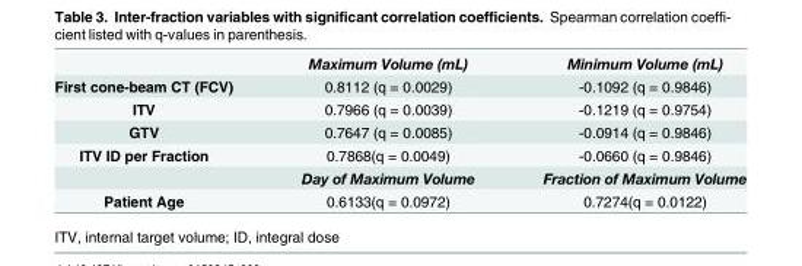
<table><thead><tr><td></td><td>Maximum Volume (mL)</td><td>Minimum Volume (mL)</td></tr></thead><tbody><tr><td>First cone-beam CT (FCV)</td><td>0.8112 (q = 0.0029)</td><td>-0.1092 (q = 0.9846)</td></tr><tr><td>ITV</td><td>0.7966 (q = 0.0039)</td><td>-0.1219 (q = 0.9754)</td></tr><tr><td>GTV</td><td>0.7647 (q = 0.0085)</td><td>-0.0914 (q = 0.9846)</td></tr><tr><td rowspan="2">ITV ID per Fraction</td><td>0.7868(q = 0.0049)</td><td>-0.0660 (q = 0.9846)</td></tr><tr><td>Day of Maximum Volume</td><td>Fraction of Maximum Volume</td></tr><tr><td>Patient Age</td><td>0.6133(q = 0.0972)</td><td>0.7274(q = 0.0122)</td></tr></tbody></table>